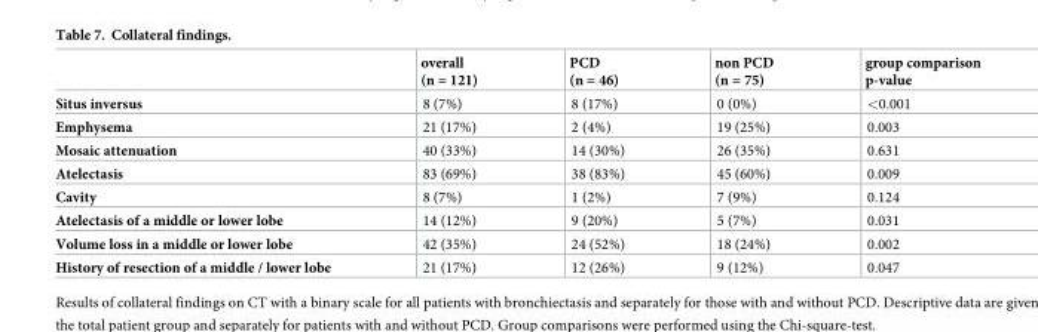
<table><thead><tr><td></td><td>overall (n = 121)</td><td>PCD (n = 46)</td><td>non PCD (n = 75)</td><td>group comparison p-value</td></tr></thead><tbody><tr><td>Situs inversus</td><td>8 (7%)</td><td>8 (17%)</td><td>0 (0%)</td><td>&lt;0.001</td></tr><tr><td>Emphysema</td><td>21 (17%)</td><td>2 (4%)</td><td>19 (25%)</td><td>0.003</td></tr><tr><td>Mosaic attenuation</td><td>40 (33%)</td><td>14 (30%)</td><td>26 (35%)</td><td>0.631</td></tr><tr><td>Atelectasis</td><td>83 (69%)</td><td>38 (83%)</td><td>45 (60%)</td><td>0.009</td></tr><tr><td>Cavity</td><td>8 (7%)</td><td>1 (2%)</td><td>7 (9%)</td><td>0.124</td></tr><tr><td>Atelectasis of a middle or lower lobe</td><td>14 (12%)</td><td>9 (20%)</td><td>5 (7%)</td><td>0.031</td></tr><tr><td>Volume loss in a middle or lower lobe</td><td>42 (35%)</td><td>24 (52%)</td><td>18 (24%)</td><td>0.002</td></tr><tr><td>History of resection of a middle / lower lobe</td><td>21 (17%)</td><td>12 (26%)</td><td>9 (12%)</td><td>0.047</td></tr></tbody></table>